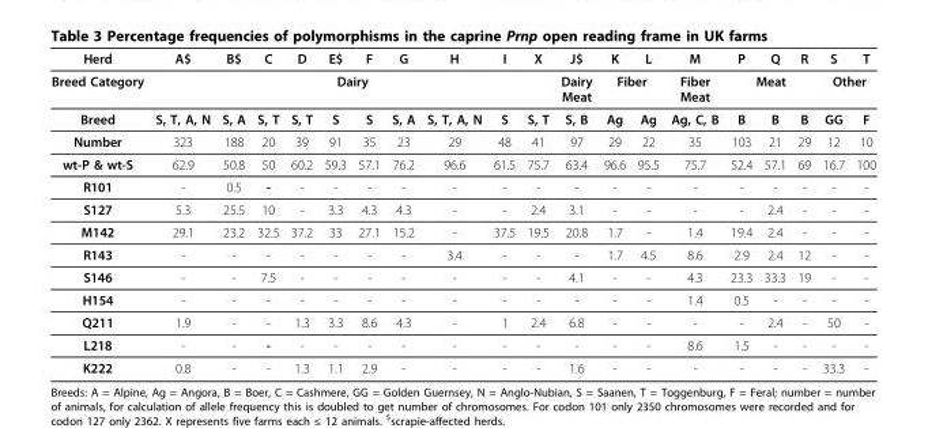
<table><thead><tr><td>Herd</td><td>A$</td><td>B$</td><td>C</td><td>D</td><td>E$</td><td>F</td><td>G</td><td>H</td><td>I</td><td>X</td><td>J$</td><td>K</td><td>L</td><td>M</td><td>P</td><td>Q</td><td>R</td><td>S</td><td>T</td></tr></thead><tbody><tr><td>Breed Category</td><td colspan="10">Dairy</td><td>Dairy Meat</td><td colspan="2">Fiber</td><td>Fiber Meat</td><td colspan="3">Meat</td><td colspan="2">Other</td></tr><tr><td>Breed</td><td>S, T, A, N</td><td>S, A</td><td>S, T</td><td>S, T</td><td>S</td><td>S</td><td>S, A</td><td>S, T, A, N</td><td>S</td><td>S, T</td><td>S, B</td><td>Ag</td><td>Ag</td><td>Ag, C, B</td><td>B</td><td>B</td><td>B</td><td>GG</td><td>F</td></tr><tr><td>Number</td><td>323</td><td>188</td><td>20</td><td>39</td><td>91</td><td>35</td><td>23</td><td>29</td><td>48</td><td>41</td><td>97</td><td>29</td><td>22</td><td>35</td><td>103</td><td>21</td><td>29</td><td>12</td><td>10</td></tr><tr><td>wt-P &amp; wt-S</td><td>62.9</td><td>50.8</td><td>50</td><td>60.2</td><td>59.3</td><td>57.1</td><td>76.2</td><td>96.6</td><td>61.5</td><td>75.7</td><td>63.4</td><td>96.6</td><td>95.5</td><td>75.7</td><td>52.4</td><td>57.1</td><td>69</td><td>16.7</td><td>100</td></tr><tr><td>R101</td><td>-</td><td>0.5</td><td>-</td><td>-</td><td>-</td><td>-</td><td>-</td><td>-</td><td>-</td><td>-</td><td>-</td><td>-</td><td>-</td><td>-</td><td>-</td><td>-</td><td>-</td><td>-</td><td>-</td></tr><tr><td>S127</td><td>5.3</td><td>25.5</td><td>10</td><td>-</td><td>3.3</td><td>4.3</td><td>4.3</td><td>-</td><td>-</td><td>2.4</td><td>3.1</td><td>-</td><td>-</td><td>-</td><td>-</td><td>2.4</td><td>-</td><td>-</td><td>-</td></tr><tr><td>M142</td><td>29.1</td><td>23.2</td><td>32.5</td><td>37.2</td><td>33</td><td>27.1</td><td>15.2</td><td>-</td><td>37.5</td><td>19.5</td><td>20.8</td><td>1.7</td><td>-</td><td>1.4</td><td>19.4</td><td>2.4</td><td>-</td><td>-</td><td>-</td></tr><tr><td>R143</td><td>-</td><td>-</td><td>-</td><td>-</td><td>-</td><td>-</td><td>-</td><td>3.4</td><td>-</td><td>-</td><td>-</td><td>1.7</td><td>4.5</td><td>8.6</td><td>2.9</td><td>2.4</td><td>12</td><td>-</td><td>-</td></tr><tr><td>S146</td><td>-</td><td>-</td><td>7.5</td><td>-</td><td>-</td><td>-</td><td>-</td><td>-</td><td>-</td><td>-</td><td>4.1</td><td>-</td><td>-</td><td>4.3</td><td>23.3</td><td>33.3</td><td>19</td><td>-</td><td>-</td></tr><tr><td>H154</td><td>-</td><td>-</td><td>-</td><td>-</td><td>-</td><td>-</td><td>-</td><td>-</td><td>-</td><td>-</td><td>-</td><td>-</td><td>-</td><td>1.4</td><td>0.5</td><td>-</td><td>-</td><td>-</td><td>-</td></tr><tr><td>Q211</td><td>1.9</td><td>-</td><td>-</td><td>1.3</td><td>3.3</td><td>8.6</td><td>4.3</td><td>-</td><td>1</td><td>2.4</td><td>6.8</td><td>-</td><td>-</td><td>-</td><td>-</td><td>2.4</td><td>-</td><td>50</td><td>-</td></tr><tr><td>L218</td><td>-</td><td>-</td><td>-</td><td>-</td><td>-</td><td>-</td><td>-</td><td>-</td><td>-</td><td>-</td><td>-</td><td>-</td><td>-</td><td>8.6</td><td>1.5</td><td>-</td><td>-</td><td>-</td><td>-</td></tr><tr><td>K222</td><td>0.8</td><td>-</td><td>-</td><td>1.3</td><td>1.1</td><td>2.9</td><td>-</td><td>-</td><td>-</td><td>-</td><td>1.6</td><td>-</td><td>-</td><td>-</td><td>-</td><td>-</td><td>-</td><td>33.3</td><td>-</td></tr></tbody></table>